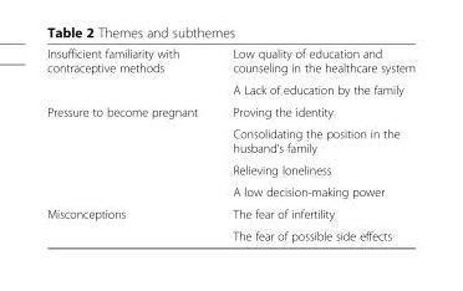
<table><tbody><tr><td rowspan="2">Insufficient familiarity with contraceptive methods</td><td>Low quality of education and counseling in the healthcare system</td></tr><tr><td>A Lack of education by the family</td></tr><tr><td rowspan="4">Pressure to become pregnant</td><td>Proving the identity</td></tr><tr><td>Consolidating the position in the husband’s family</td></tr><tr><td>Relieving loneliness</td></tr><tr><td>A low decision-making power</td></tr><tr><td rowspan="2">Misconceptions</td><td>The fear of infertility</td></tr><tr><td>The fear of possible side effects</td></tr></tbody></table>